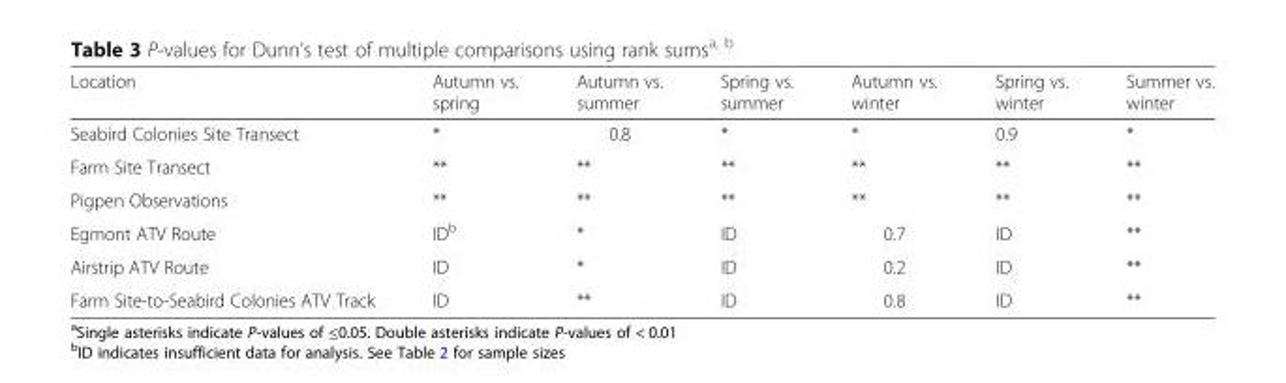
<table><thead><tr><td>Location</td><td>Autumn vs. spring</td><td>Autumn vs. summer</td><td>Spring vs. summer</td><td>Autumn vs. winter</td><td>Spring vs. winter</td><td>Summer vs. winter</td></tr></thead><tbody><tr><td>Seabird Colonies Site Transect</td><td>*</td><td>0.8</td><td>*</td><td>*</td><td>0.9</td><td>*</td></tr><tr><td>Farm Site Transect</td><td>**</td><td>**</td><td>**</td><td>**</td><td>**</td><td>**</td></tr><tr><td>Pigpen Observations</td><td>**</td><td>**</td><td>**</td><td>**</td><td>**</td><td>**</td></tr><tr><td>Egmont ATV Route</td><td>ID<sup>b</sup></td><td>*</td><td>ID</td><td>0.7</td><td>ID</td><td>**</td></tr><tr><td>Airstrip ATV Route</td><td>ID</td><td>*</td><td>ID</td><td>0.2</td><td>ID</td><td>**</td></tr><tr><td>Farm Site-to-Seabird Colonies ATV Track</td><td>ID</td><td>**</td><td>ID</td><td>0.8</td><td>ID</td><td>**</td></tr></tbody></table>